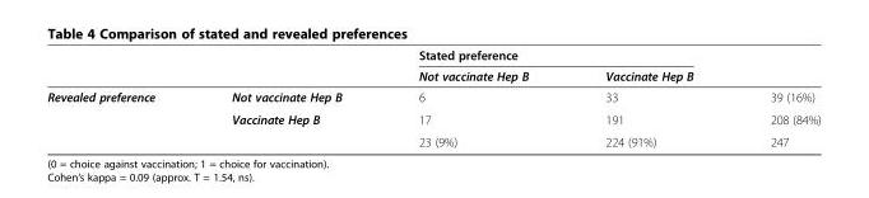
<table><thead><tr><td rowspan="2"></td><td rowspan="2"></td><td colspan="2">Stated preference</td><td rowspan="2"></td></tr><tr><td>Not vaccinate Hep B</td><td>Vaccinate Hep B</td></tr></thead><tbody><tr><td rowspan="3">Revealed preference</td><td>Not vaccinate Hep B</td><td>6</td><td>33</td><td>39 (16%)</td></tr><tr><td>Vaccinate Hep B</td><td>17</td><td>191</td><td>208 (84%)</td></tr><tr><td></td><td>23 (9%)</td><td>224 (91%)</td><td>247</td></tr></tbody></table>